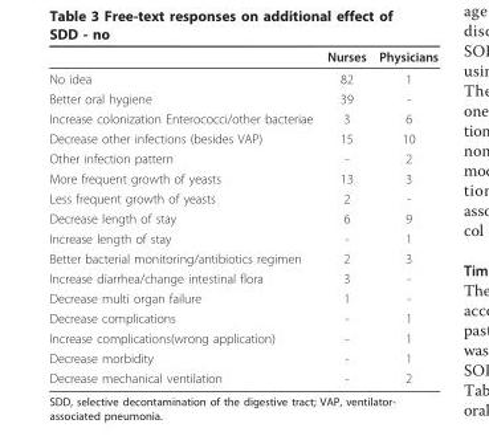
<table><thead><tr><td></td><td>Nurses</td><td>Physicians</td></tr></thead><tbody><tr><td>No idea</td><td>82</td><td>1</td></tr><tr><td>Better oral hygiene</td><td>39</td><td>-</td></tr><tr><td>Increase colonization Enterococci/other bacteriae</td><td>3</td><td>6</td></tr><tr><td>Decrease other infections (besides VAP)</td><td>15</td><td>10</td></tr><tr><td>Other infection pattern</td><td>-</td><td>2</td></tr><tr><td>More frequent growth of yeasts</td><td>13</td><td>3</td></tr><tr><td>Less frequent growth of yeasts</td><td>2</td><td>-</td></tr><tr><td>Decrease length of stay</td><td>6</td><td>9</td></tr><tr><td>Increase length of stay</td><td>-</td><td>1</td></tr><tr><td>Better bacterial monitoring/antibiotics regimen</td><td>2</td><td>3</td></tr><tr><td>Increase diarrhea/change intestinal flora</td><td>3</td><td>-</td></tr><tr><td>Decrease multi organ failure</td><td>1</td><td>-</td></tr><tr><td>Decrease complications</td><td>-</td><td>1</td></tr><tr><td>Increase complications(wrong application)</td><td>-</td><td>1</td></tr><tr><td>Decrease morbidity</td><td>-</td><td>1</td></tr><tr><td>Decrease mechanical ventilation</td><td>-</td><td>2</td></tr></tbody></table>